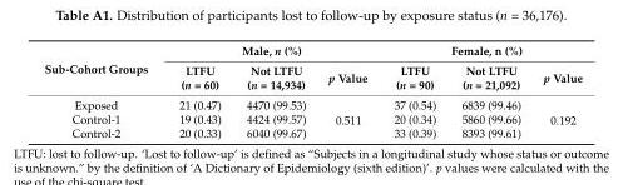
<table><thead><tr><td rowspan="2">Sub-Cohort Groups</td><td colspan="3">Male, n (%)</td><td colspan="3">Female, n (%)</td></tr><tr><td>LTFU (n = 60)</td><td>Not LTFU (n = 14,934)</td><td>p Value</td><td>LTFU (n = 90)</td><td>Not LTFU (n = 21,092)</td><td>p Value</td></tr></thead><tbody><tr><td>Exposed</td><td>21 (0.47)</td><td>4470 (99.53)</td><td rowspan="3">0.511</td><td>37 (0.54)</td><td>6839 (99.46)</td><td rowspan="3">0.192</td></tr><tr><td>Control-1</td><td>19 (0.43)</td><td>4424 (99.57)</td><td>20 (0.34)</td><td>5860 (99.66)</td></tr><tr><td>Control-2</td><td>20 (0.33)</td><td>6040 (99.67)</td><td>33 (0.39)</td><td>8393 (99.61)</td></tr></tbody></table>